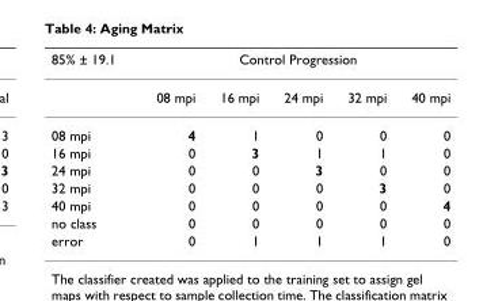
<table><thead><tr><td rowspan="2">85% ± 19.1</td><td colspan="5">Control Progression</td></tr><tr><td>08 mpi</td><td>16 mpi</td><td>24 mpi</td><td>32 mpi</td><td>40 mpi</td></tr></thead><tbody><tr><td>08 mpi</td><td>4</td><td>1</td><td>0</td><td>0</td><td>0</td></tr><tr><td>16 mpi</td><td>0</td><td>3</td><td>1</td><td>1</td><td>0</td></tr><tr><td>24 mpi</td><td>0</td><td>0</td><td>3</td><td>0</td><td>0</td></tr><tr><td>32 mpi</td><td>0</td><td>0</td><td>0</td><td>3</td><td>0</td></tr><tr><td>40 mpi</td><td>0</td><td>0</td><td>0</td><td>0</td><td>4</td></tr><tr><td>no class</td><td>0</td><td>0</td><td>0</td><td>0</td><td>0</td></tr><tr><td>error</td><td>0</td><td>1</td><td>1</td><td>1</td><td>0</td></tr></tbody></table>